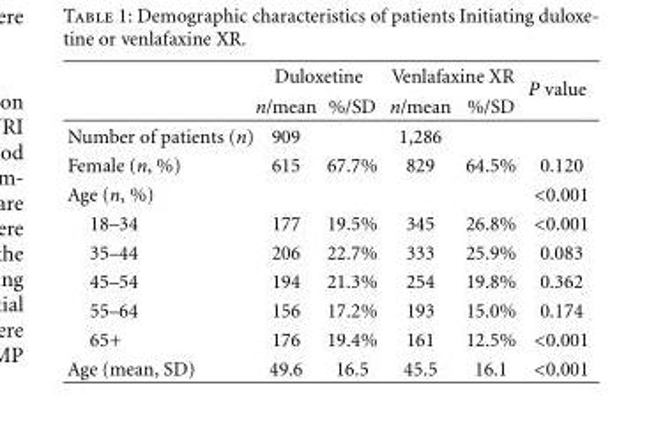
<table><thead><tr><td rowspan="2"></td><td colspan="2">Duloxetine</td><td colspan="2">Venlafaxine XR</td><td rowspan="2">P value</td></tr><tr><td>n/mean</td><td>%/SD</td><td>n/mean</td><td>%/SD</td></tr></thead><tbody><tr><td>Number of patients (n)</td><td>909</td><td></td><td>1,286</td><td></td><td></td></tr><tr><td>Female (n, %)</td><td>615</td><td>67.7%</td><td>829</td><td>64.5%</td><td>0.120</td></tr><tr><td>Age (n, %)</td><td></td><td></td><td></td><td></td><td>&lt;0.001</td></tr><tr><td>18–34</td><td>177</td><td>19.5%</td><td>345</td><td>26.8%</td><td>&lt;0.001</td></tr><tr><td>35–44</td><td>206</td><td>22.7%</td><td>333</td><td>25.9%</td><td>0.083</td></tr><tr><td>45–54</td><td>194</td><td>21.3%</td><td>254</td><td>19.8%</td><td>0.362</td></tr><tr><td>55–64</td><td>156</td><td>17.2%</td><td>193</td><td>15.0%</td><td>0.174</td></tr><tr><td>65+</td><td>176</td><td>19.4%</td><td>161</td><td>12.5%</td><td>&lt;0.001</td></tr><tr><td>Age (mean, SD)</td><td>49.6</td><td>16.5</td><td>45.5</td><td>16.1</td><td>&lt;0.001</td></tr></tbody></table>